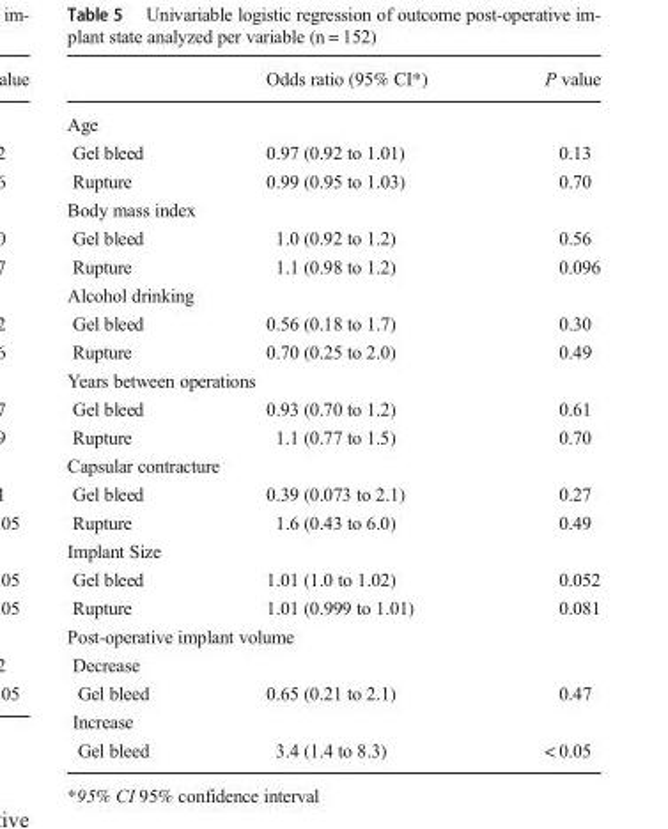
<table><thead><tr><td></td><td>Odds ratio (95% CI*)</td><td>P value</td></tr></thead><tbody><tr><td colspan="3">Age</td></tr><tr><td>Gel bleed</td><td>0.97 (0.92 to 1.01)</td><td>0.13</td></tr><tr><td>Rupture</td><td>0.99 (0.95 to 1.03)</td><td>0.70</td></tr><tr><td colspan="3">Body mass index</td></tr><tr><td>Gel bleed</td><td>1.0 (0.92 to 1.2)</td><td>0.56</td></tr><tr><td>Rupture</td><td>1.1 (0.98 to 1.2)</td><td>0.096</td></tr><tr><td colspan="3">Alcohol drinking</td></tr><tr><td>Gel bleed</td><td>0.56 (0.18 to 1.7)</td><td>0.30</td></tr><tr><td>Rupture</td><td>0.70 (0.25 to 2.0)</td><td>0.49</td></tr><tr><td colspan="3">Years between operations</td></tr><tr><td>Gel bleed</td><td>0.93 (0.70 to 1.2)</td><td>0.61</td></tr><tr><td>Rupture</td><td>1.1 (0.77 to 1.5)</td><td>0.70</td></tr><tr><td colspan="3">Capsular contracture</td></tr><tr><td>Gel bleed</td><td>0.39 (0.073 to 2.1)</td><td>0.27</td></tr><tr><td>Rupture</td><td>1.6 (0.43 to 6.0)</td><td>0.49</td></tr><tr><td colspan="3">Implant Size</td></tr><tr><td>Gel bleed</td><td>1.01 (1.0 to 1.02)</td><td>0.052</td></tr><tr><td>Rupture</td><td>1.01 (0.999 to 1.01)</td><td>0.081</td></tr><tr><td colspan="3">Post-operative implant volume</td></tr><tr><td colspan="3">Decrease</td></tr><tr><td>Gel bleed</td><td>0.65 (0.21 to 2.1)</td><td>0.47</td></tr><tr><td colspan="3">Increase</td></tr><tr><td>Gel bleed</td><td>3.4 (1.4 to 8.3)</td><td>&lt; 0.05</td></tr></tbody></table>